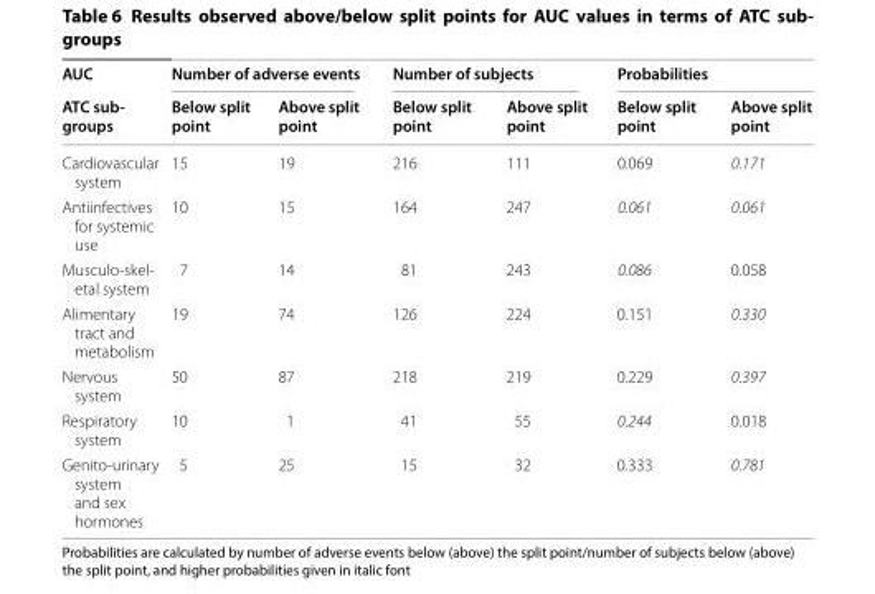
<table><thead><tr><td rowspan="2">AUC ATC sub- groups</td><td colspan="2">Number of adverse events</td><td colspan="2">Number of subjects</td><td colspan="2">Probabilities</td></tr><tr><td>Below split point</td><td>Above split point</td><td>Below split point</td><td>Above split point</td><td>Below split point</td><td>Above split point</td></tr></thead><tbody><tr><td>Cardiovascular system</td><td>15</td><td>19</td><td>216</td><td>111</td><td>0.069</td><td>0.171</td></tr><tr><td>Antiinfectives for systemic use</td><td>10</td><td>15</td><td>164</td><td>247</td><td>0.061</td><td>0.061</td></tr><tr><td>Musculo-skel- etal system</td><td>7</td><td>14</td><td>81</td><td>243</td><td>0.086</td><td>0.058</td></tr><tr><td>Alimentary tract and metabolism</td><td>19</td><td>74</td><td>126</td><td>224</td><td>0.151</td><td>0.330</td></tr><tr><td>Nervous system</td><td>50</td><td>87</td><td>218</td><td>219</td><td>0.229</td><td>0.397</td></tr><tr><td>Respiratory system</td><td>10</td><td>1</td><td>41</td><td>55</td><td>0.244</td><td>0.018</td></tr><tr><td>Genito-urinary system and sex hormones</td><td>5</td><td>25</td><td>15</td><td>32</td><td>0.333</td><td>0.781</td></tr></tbody></table>